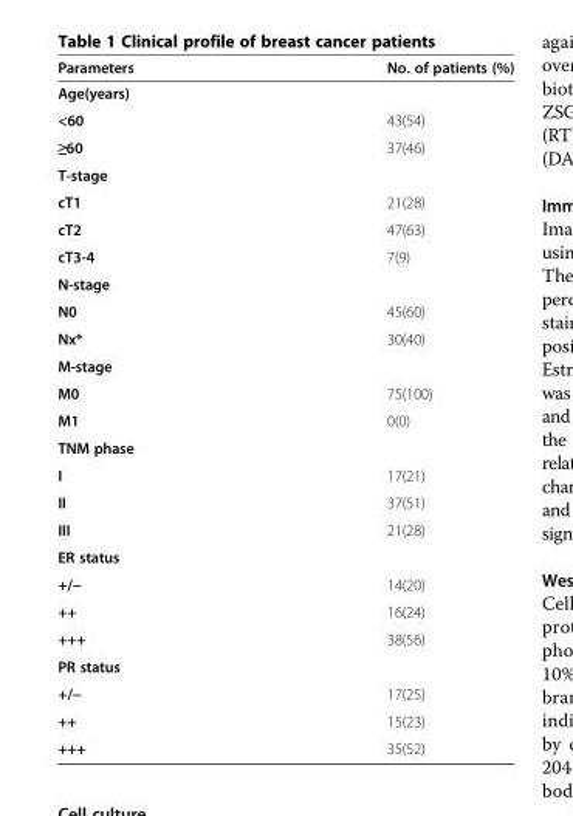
<table><thead><tr><td>Parameters</td><td>No. of patients (%)</td></tr></thead><tbody><tr><td colspan="2">Age(years)</td></tr><tr><td>&lt;60</td><td>43(54)</td></tr><tr><td>≥60</td><td>37(46)</td></tr><tr><td colspan="2">T-stage</td></tr><tr><td>cT1</td><td>21(28)</td></tr><tr><td>cT2</td><td>47(63)</td></tr><tr><td>cT3-4</td><td>7(9)</td></tr><tr><td colspan="2">N-stage</td></tr><tr><td>N0</td><td>45(60)</td></tr><tr><td>Nx*</td><td>30(40)</td></tr><tr><td colspan="2">M-stage</td></tr><tr><td>M0</td><td>75(100)</td></tr><tr><td>M1</td><td>0(0)</td></tr><tr><td colspan="2">TNM phase</td></tr><tr><td>I</td><td>17(21)</td></tr><tr><td>II</td><td>37(51)</td></tr><tr><td>III</td><td>21(28)</td></tr><tr><td colspan="2">ER status</td></tr><tr><td>+/−</td><td>14(20)</td></tr><tr><td>++</td><td>16(24)</td></tr><tr><td>+++</td><td>38(56)</td></tr><tr><td colspan="2">PR status</td></tr><tr><td>+/−</td><td>17(25)</td></tr><tr><td>++</td><td>15(23)</td></tr><tr><td>+++</td><td>35(52)</td></tr></tbody></table>